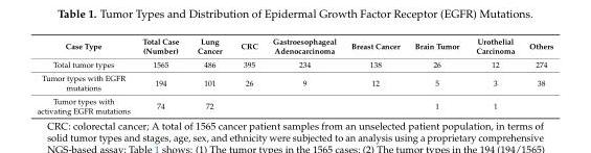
<table><thead><tr><td>Case Type</td><td>Total Case (Number)</td><td>Lung Cancer</td><td>CRC</td><td>Gastroesophageal Adenocarcinoma</td><td>Breast Cancer</td><td>Brain Tumor</td><td>Urothelial Carcinoma</td><td>Others</td></tr></thead><tbody><tr><td>Total tumor types</td><td>1565</td><td>486</td><td>395</td><td>234</td><td>138</td><td>26</td><td>12</td><td>274</td></tr><tr><td>Tumor types with EGFR mutations</td><td>194</td><td>101</td><td>26</td><td>9</td><td>12</td><td>5</td><td>3</td><td>38</td></tr><tr><td>Tumor types with activating EGFR mutations</td><td>74</td><td>72</td><td></td><td></td><td></td><td>1</td><td>1</td><td></td></tr></tbody></table>